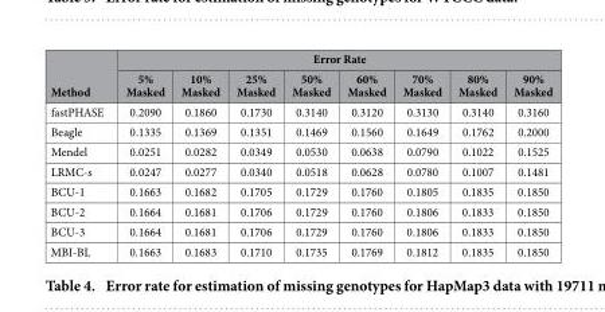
<table><thead><tr><td rowspan="2">Method</td><td colspan="8">Error Rate</td></tr><tr><td>5% Masked</td><td>10% Masked</td><td>25% Masked</td><td>50% Masked</td><td>60% Masked</td><td>70% Masked</td><td>80% Masked</td><td>90% Masked</td></tr></thead><tbody><tr><td>fastPHASE</td><td>0.2090</td><td>0.1860</td><td>0.1730</td><td>0.3140</td><td>0.3120</td><td>0.3130</td><td>0.3140</td><td>0.3160</td></tr><tr><td>Beagle</td><td>0.1335</td><td>0.1369</td><td>0.1351</td><td>0.1469</td><td>0.1560</td><td>0.1649</td><td>0.1762</td><td>0.2000</td></tr><tr><td>Mendel</td><td>0.0251</td><td>0.0282</td><td>0.0349</td><td>0.0530</td><td>0.0638</td><td>0.0790</td><td>0.1022</td><td>0.1525</td></tr><tr><td>LRMC-s</td><td>0.0247</td><td>0.0277</td><td>0.0340</td><td>0.0518</td><td>0.0628</td><td>0.0780</td><td>0.1007</td><td>0.1481</td></tr><tr><td>BCU-1</td><td>0.1663</td><td>0.1682</td><td>0.1705</td><td>0.1729</td><td>0.1760</td><td>0.1805</td><td>0.1835</td><td>0.1850</td></tr><tr><td>BCU-2</td><td>0.1664</td><td>0.1681</td><td>0.1706</td><td>0.1729</td><td>0.1760</td><td>0.1806</td><td>0.1833</td><td>0.1850</td></tr><tr><td>BCU-3</td><td>0.1664</td><td>0.1681</td><td>0.1706</td><td>0.1729</td><td>0.1760</td><td>0.1806</td><td>0.1833</td><td>0.1850</td></tr><tr><td>MBI-BL</td><td>0.1663</td><td>0.1683</td><td>0.1710</td><td>0.1735</td><td>0.1769</td><td>0.1812</td><td>0.1835</td><td>0.1850</td></tr></tbody></table>